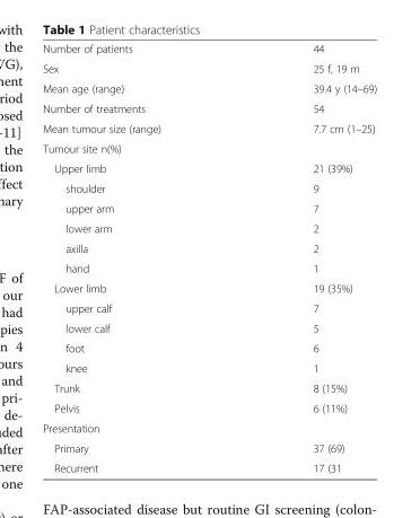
<table><tbody><tr><td>Number of patients</td><td>44</td></tr><tr><td>Sex</td><td>25 f, 19 m</td></tr><tr><td>Mean age (range)</td><td>39.4 y (14–69)</td></tr><tr><td>Number of treatments</td><td>54</td></tr><tr><td>Mean tumour size (range)</td><td>7.7 cm (1–25)</td></tr><tr><td colspan="2">Tumour site n(%)</td></tr><tr><td>Upper limb</td><td>21 (39%)</td></tr><tr><td>shoulder</td><td>9</td></tr><tr><td>upper arm</td><td>7</td></tr><tr><td>lower arm</td><td>2</td></tr><tr><td>axilla</td><td>2</td></tr><tr><td>hand</td><td>1</td></tr><tr><td>Lower limb</td><td>19 (35%)</td></tr><tr><td>upper calf</td><td>7</td></tr><tr><td>lower calf</td><td>5</td></tr><tr><td>foot</td><td>6</td></tr><tr><td>knee</td><td>1</td></tr><tr><td>Trunk</td><td>8 (15%)</td></tr><tr><td>Pelvis</td><td>6 (11%)</td></tr><tr><td colspan="2">Presentation</td></tr><tr><td>Primary</td><td>37 (69)</td></tr><tr><td>Recurrent</td><td>17 (31</td></tr></tbody></table>